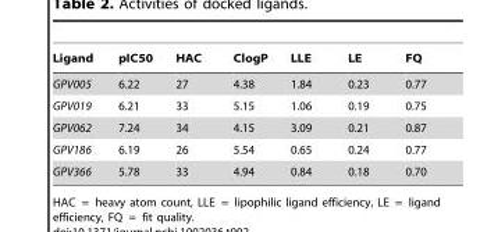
<table><thead><tr><td>Ligand</td><td>pIC50</td><td>HAC</td><td>ClogP</td><td>LLE</td><td>LE</td><td>FQ</td></tr></thead><tbody><tr><td>GPV005</td><td>6.22</td><td>27</td><td>4.38</td><td>1.84</td><td>0.23</td><td>0.77</td></tr><tr><td>GPV019</td><td>6.21</td><td>33</td><td>5.15</td><td>1.06</td><td>0.19</td><td>0.75</td></tr><tr><td>GPV062</td><td>7.24</td><td>34</td><td>4.15</td><td>3.09</td><td>0.21</td><td>0.87</td></tr><tr><td>GPV186</td><td>6.19</td><td>26</td><td>5.54</td><td>0.65</td><td>0.24</td><td>0.77</td></tr><tr><td>GPV366</td><td>5.78</td><td>33</td><td>4.94</td><td>0.84</td><td>0.18</td><td>0.70</td></tr></tbody></table>